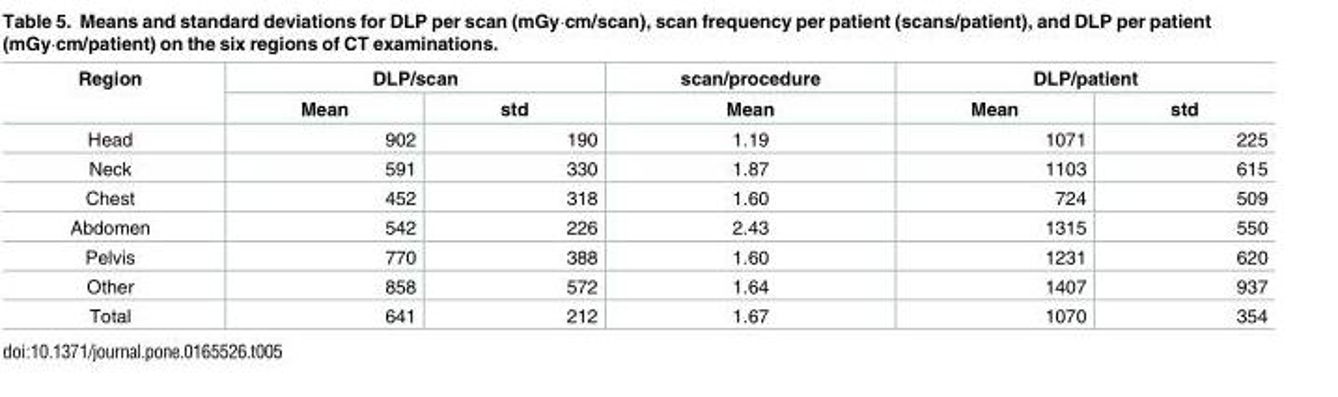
<table><thead><tr><td rowspan="2">Region</td><td colspan="2">DLP/scan</td><td rowspan="2">scan/procedure Mean</td><td colspan="2">DLP/patient</td></tr><tr><td>Mean</td><td>std</td><td>Mean</td><td>std</td></tr></thead><tbody><tr><td>Head</td><td>902</td><td>190</td><td>1.19</td><td>1071</td><td>225</td></tr><tr><td>Neck</td><td>591</td><td>330</td><td>1.87</td><td>1103</td><td>615</td></tr><tr><td>Chest</td><td>452</td><td>318</td><td>1.60</td><td>724</td><td>509</td></tr><tr><td>Abdomen</td><td>542</td><td>226</td><td>2.43</td><td>1315</td><td>550</td></tr><tr><td>Pelvis</td><td>770</td><td>388</td><td>1.60</td><td>1231</td><td>620</td></tr><tr><td>Other</td><td>858</td><td>572</td><td>1.64</td><td>1407</td><td>937</td></tr><tr><td>Total</td><td>641</td><td>212</td><td>1.67</td><td>1070</td><td>354</td></tr></tbody></table>